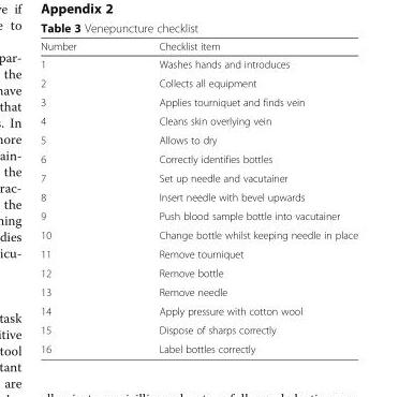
<table><thead><tr><td>Number</td><td>Checklist item</td></tr></thead><tbody><tr><td>1</td><td>Washes hands and introduces</td></tr><tr><td>2</td><td>Collects all equipment</td></tr><tr><td>3</td><td>Applies tourniquet and finds vein</td></tr><tr><td>4</td><td>Cleans skin overlying vein</td></tr><tr><td>5</td><td>Allows to dry</td></tr><tr><td>6</td><td>Correctly identifies bottles</td></tr><tr><td>7</td><td>Set up needle and vacutainer</td></tr><tr><td>8</td><td>Insert needle with bevel upwards</td></tr><tr><td>9</td><td>Push blood sample bottle into vacutainer</td></tr><tr><td>10</td><td>Change bottle whilst keeping needle in place</td></tr><tr><td>11</td><td>Remove tourniquet</td></tr><tr><td>12</td><td>Remove bottle</td></tr><tr><td>13</td><td>Remove needle</td></tr><tr><td>14</td><td>Apply pressure with cotton wool</td></tr><tr><td>15</td><td>Dispose of sharps correctly</td></tr><tr><td>16</td><td>Label bottles correctly</td></tr></tbody></table>